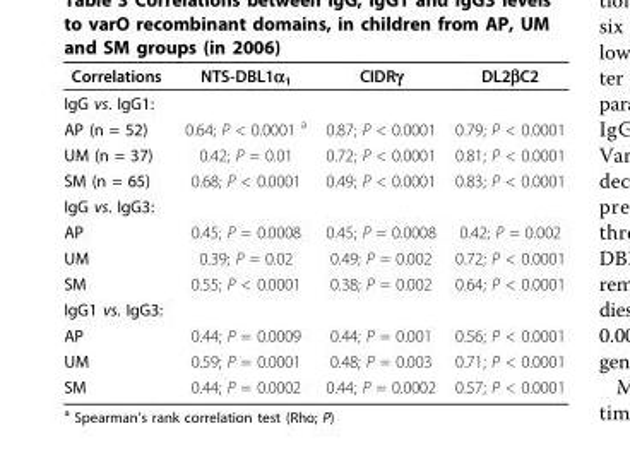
<table><thead><tr><td>Correlations</td><td>NTS-DBL1α<sub>1</sub></td><td>CIDRγ</td><td>DL2βC2</td></tr></thead><tbody><tr><td colspan="4">IgG vs. IgG1:</td></tr><tr><td>AP (n = 52)</td><td>0.64; P &lt; 0.0001 <sup>a</sup></td><td>0.87; P &lt; 0.0001</td><td>0.79; P &lt; 0.0001</td></tr><tr><td>UM (n = 37)</td><td>0.42; P = 0.01</td><td>0.72; P &lt; 0.0001</td><td>0.81; P &lt; 0.0001</td></tr><tr><td>SM (n = 65)</td><td>0.68; P &lt; 0.0001</td><td>0.49; P &lt; 0.0001</td><td>0.83; P &lt; 0.0001</td></tr><tr><td colspan="4">IgG vs. IgG3:</td></tr><tr><td>AP</td><td>0.45; P = 0.0008</td><td>0.45; P = 0.0008</td><td>0.42; P = 0.002</td></tr><tr><td>UM</td><td>0.39; P = 0.02</td><td>0.49; P = 0.002</td><td>0.72; P &lt; 0.0001</td></tr><tr><td>SM</td><td>0.55; P &lt; 0.0001</td><td>0.38; P = 0.002</td><td>0.64; P &lt; 0.0001</td></tr><tr><td colspan="4">IgG1 vs. IgG3:</td></tr><tr><td>AP</td><td>0.44; P = 0.0009</td><td>0.44; P = 0.001</td><td>0.56; P &lt; 0.0001</td></tr><tr><td>UM</td><td>0.59; P = 0.0001</td><td>0.48; P = 0.003</td><td>0.71; P &lt; 0.0001</td></tr><tr><td>SM</td><td>0.44; P = 0.0002</td><td>0.44; P = 0.0002</td><td>0.57; P &lt; 0.0001</td></tr></tbody></table>